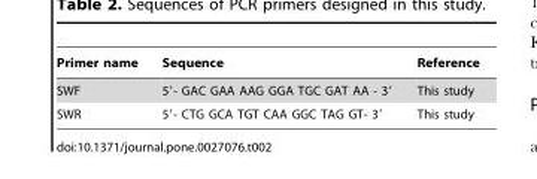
<table><thead><tr><td>Primer name</td><td>Sequence</td><td>Reference</td></tr></thead><tbody><tr><td>SWF</td><td>5′- GAC GAA AAG GGA TGC GAT AA - 3′</td><td>This study</td></tr><tr><td>SWR</td><td>5′- CTG GCA TGT CAA GGC TAG GT- 3′</td><td>This study</td></tr></tbody></table>